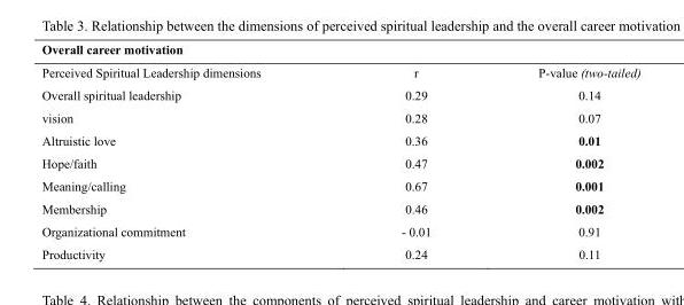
<table><thead><tr><td colspan="3">Overall career motivation</td></tr><tr><td>Perceived Spiritual Leadership dimensions</td><td>r</td><td>P-value (two-tailed)</td></tr></thead><tbody><tr><td>Overall spiritual leadership</td><td>0.29</td><td>0.14</td></tr><tr><td>vision</td><td>0.28</td><td>0.07</td></tr><tr><td>Altruistic love</td><td>0.36</td><td>0.01</td></tr><tr><td>Hope/faith</td><td>0.47</td><td>0.002</td></tr><tr><td>Meaning/calling</td><td>0.67</td><td>0.001</td></tr><tr><td>Membership</td><td>0.46</td><td>0.002</td></tr><tr><td>Organizational commitment</td><td>- 0.01</td><td>0.91</td></tr><tr><td>Productivity</td><td>0.24</td><td>0.11</td></tr></tbody></table>